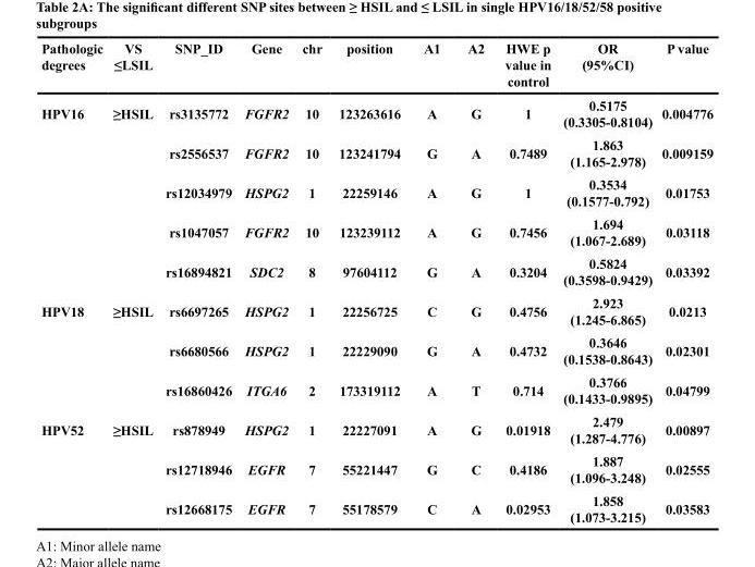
<table><thead><tr><td>Pathologic degrees</td><td>VS ≤LSIL</td><td>SNP_ID</td><td>Gene</td><td>chr</td><td>position</td><td>A1</td><td>A2</td><td>HWE p value in control</td><td>OR (95%CI)</td><td>P value</td></tr></thead><tbody><tr><td rowspan="5">HPV16</td><td rowspan="5">≥HSIL</td><td>rs3135772</td><td>FGFR2</td><td>10</td><td>123263616</td><td>A</td><td>G</td><td>1</td><td>0.5175 (0.3305-0.8104)</td><td>0.004776</td></tr><tr><td>rs2556537</td><td>FGFR2</td><td>10</td><td>123241794</td><td>G</td><td>A</td><td>0.7489</td><td>1.863 (1.165-2.978)</td><td>0.009159</td></tr><tr><td>rs12034979</td><td>HSPG2</td><td>1</td><td>22259146</td><td>A</td><td>G</td><td>1</td><td>0.3534 (0.1577-0.792)</td><td>0.01753</td></tr><tr><td>rs1047057</td><td>FGFR2</td><td>10</td><td>123239112</td><td>A</td><td>G</td><td>0.7456</td><td>1.694 (1.067-2.689)</td><td>0.03118</td></tr><tr><td>rs16894821</td><td>SDC2</td><td>8</td><td>97604112</td><td>G</td><td>A</td><td>0.3204</td><td>0.5824 (0.3598-0.9429)</td><td>0.03392</td></tr><tr><td rowspan="3">HPV18</td><td rowspan="3">≥HSIL</td><td>rs6697265</td><td>HSPG2</td><td>1</td><td>22256725</td><td>C</td><td>G</td><td>0.4756</td><td>2.923 (1.245-6.865)</td><td>0.0213</td></tr><tr><td>rs6680566</td><td>HSPG2</td><td>1</td><td>22229090</td><td>G</td><td>A</td><td>0.4732</td><td>0.3646 (0.1538-0.8643)</td><td>0.02301</td></tr><tr><td>rs16860426</td><td>ITGA6</td><td>2</td><td>173319112</td><td>A</td><td>T</td><td>0.714</td><td>0.3766 (0.1433-0.9895)</td><td>0.04799</td></tr><tr><td rowspan="3">HPV52</td><td rowspan="3">≥HSIL</td><td>rs878949</td><td>HSPG2</td><td>1</td><td>22227091</td><td>A</td><td>G</td><td>0.01918</td><td>2.479 (1.287-4.776)</td><td>0.00897</td></tr><tr><td>rs12718946</td><td>EGFR</td><td>7</td><td>55221447</td><td>G</td><td>C</td><td>0.4186</td><td>1.887 (1.096-3.248)</td><td>0.02555</td></tr><tr><td>rs12668175</td><td>EGFR</td><td>7</td><td>55178579</td><td>C</td><td>A</td><td>0.02953</td><td>1.858 (1.073-3.215)</td><td>0.03583</td></tr></tbody></table>